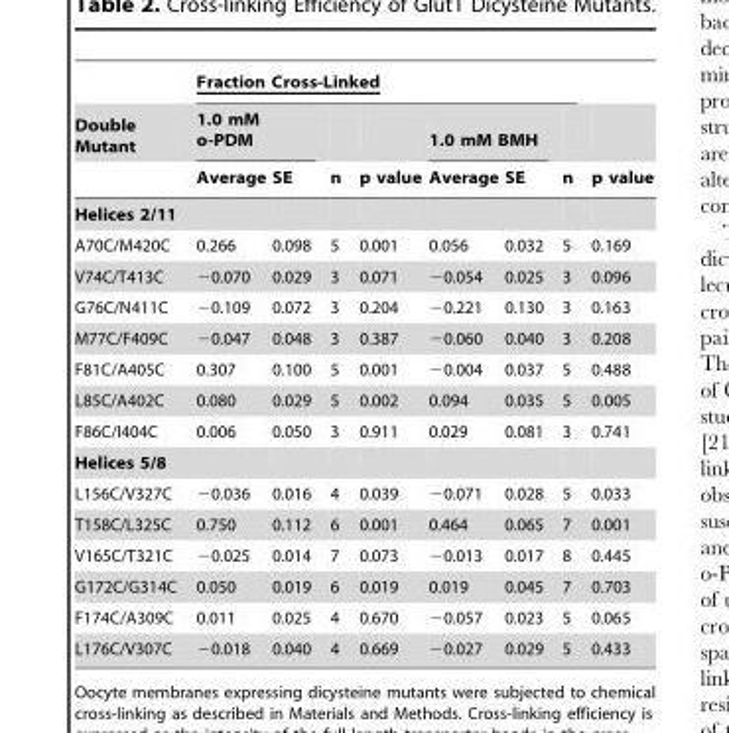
<table><thead><tr><td rowspan="3">Double Mutant</td><td colspan="7">Fraction Cross-Linked</td><td rowspan="3">p value</td></tr><tr><td colspan="2">1.0 mM o-PDM</td><td rowspan="2">n</td><td rowspan="2">p value</td><td colspan="2">1.0 mM BMH</td><td rowspan="2">n</td></tr><tr><td>Average</td><td>SE</td><td>Average</td><td>SE</td></tr></thead><tbody><tr><td colspan="9">Helices 2/11</td></tr><tr><td>A70C/M420C</td><td>0.266</td><td>0.098</td><td>5</td><td>0.001</td><td>0.056</td><td>0.032</td><td>5</td><td>0.169</td></tr><tr><td>V74C/T413C</td><td>−0.070</td><td>0.029</td><td>3</td><td>0.071</td><td>−0.054</td><td>0.025</td><td>3</td><td>0.096</td></tr><tr><td>G76C/N411C</td><td>−0.109</td><td>0.072</td><td>3</td><td>0.204</td><td>−0.221</td><td>0.130</td><td>3</td><td>0.163</td></tr><tr><td>M77C/F409C</td><td>−0.047</td><td>0.048</td><td>3</td><td>0.387</td><td>−0.060</td><td>0.040</td><td>3</td><td>0.208</td></tr><tr><td>F81C/A405C</td><td>0.307</td><td>0.100</td><td>5</td><td>0.001</td><td>−0.004</td><td>0.037</td><td>5</td><td>0.488</td></tr><tr><td>L85C/A402C</td><td>0.080</td><td>0.029</td><td>5</td><td>0.002</td><td>0.094</td><td>0.035</td><td>5</td><td>0.005</td></tr><tr><td>F86C/I404C</td><td>0.006</td><td>0.050</td><td>3</td><td>0.911</td><td>0.029</td><td>0.081</td><td>3</td><td>0.741</td></tr><tr><td colspan="9">Helices 5/8</td></tr><tr><td>L156C/V327C</td><td>−0.036</td><td>0.016</td><td>4</td><td>0.039</td><td>−0.071</td><td>0.028</td><td>5</td><td>0.033</td></tr><tr><td>T158C/L325C</td><td>0.750</td><td>0.112</td><td>6</td><td>0.001</td><td>0.464</td><td>0.065</td><td>7</td><td>0.001</td></tr><tr><td>V165C/T321C</td><td>−0.025</td><td>0.014</td><td>7</td><td>0.073</td><td>−0.013</td><td>0.017</td><td>8</td><td>0.445</td></tr><tr><td>G172C/G314C</td><td>0.050</td><td>0.019</td><td>6</td><td>0.019</td><td>0.019</td><td>0.045</td><td>7</td><td>0.703</td></tr><tr><td>F174C/A309C</td><td>0.011</td><td>0.025</td><td>4</td><td>0.670</td><td>−0.057</td><td>0.023</td><td>5</td><td>0.065</td></tr><tr><td>L176C/V307C</td><td>−0.018</td><td>0.040</td><td>4</td><td>0.669</td><td>−0.027</td><td>0.029</td><td>5</td><td>0.433</td></tr></tbody></table>